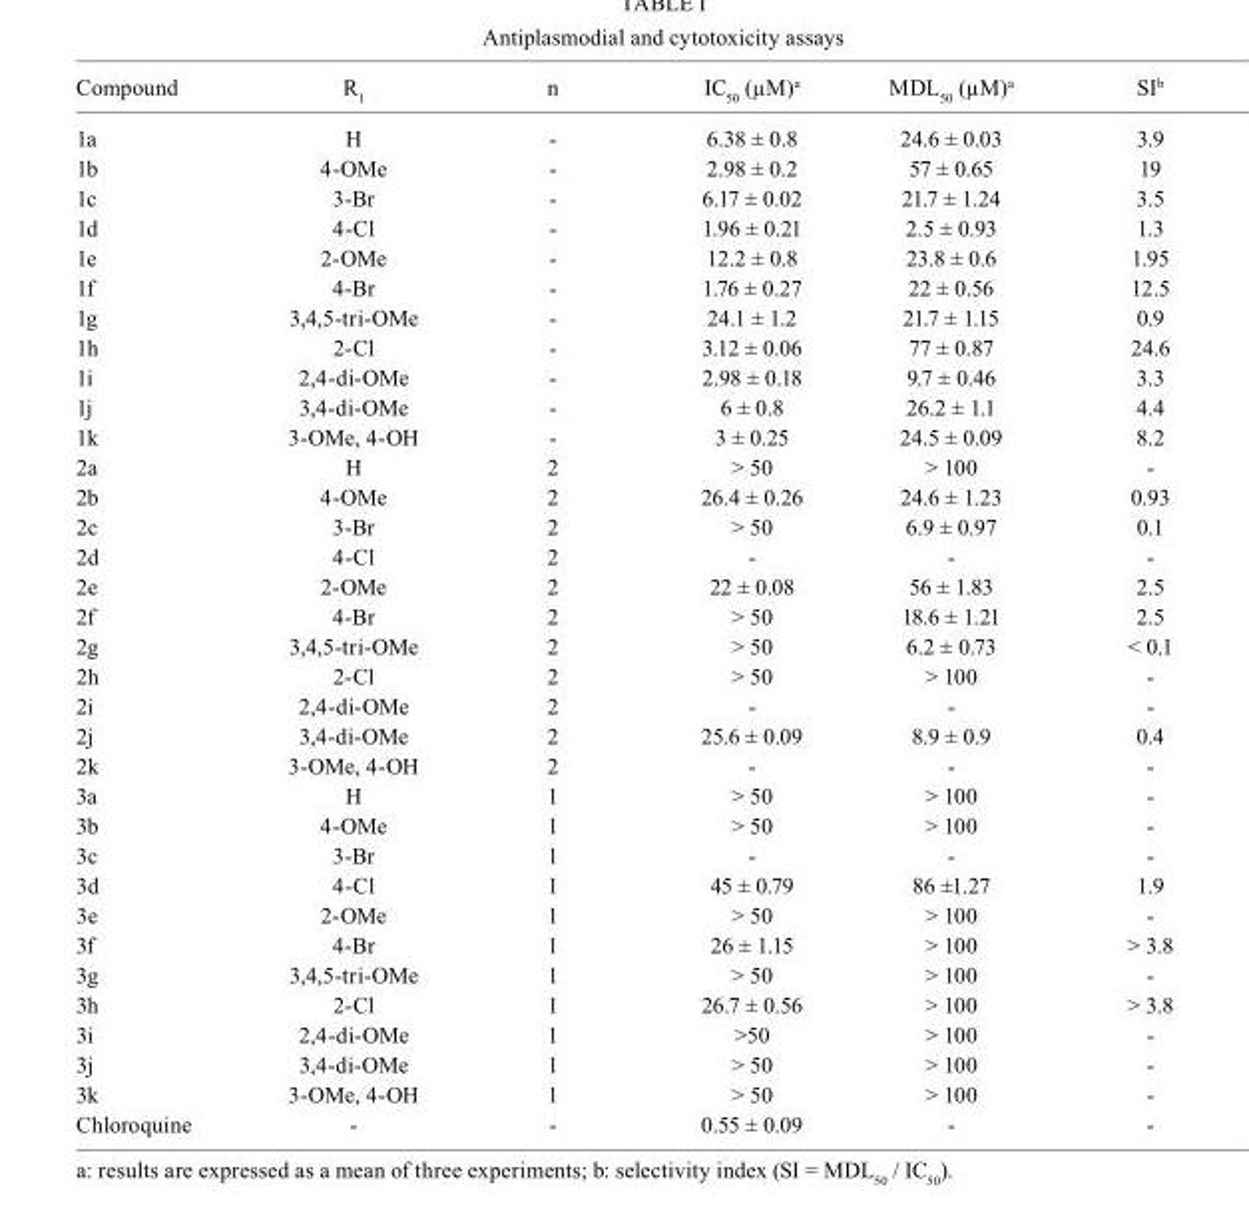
<table><thead><tr><td>Compound</td><td>R<sub>1</sub></td><td>n</td><td>IC<sub>50</sub> (µM)<sup>a</sup></td><td>MDL<sub>50</sub> (µM)<sup>a</sup></td><td>SI<sup>b</sup></td></tr></thead><tbody><tr><td>1a</td><td>H</td><td>-</td><td>6.38 ± 0.8</td><td>24.6 ± 0.03</td><td>3.9</td></tr><tr><td>1b</td><td>4-OMe</td><td>-</td><td>2.98 ± 0.2</td><td>57 ± 0.65</td><td>19</td></tr><tr><td>1c</td><td>3-Br</td><td>-</td><td>6.17 ± 0.02</td><td>21.7 ± 1.24</td><td>3.5</td></tr><tr><td>1d</td><td>4-Cl</td><td>-</td><td>1.96 ± 0.21</td><td>2.5 ± 0.93</td><td>1.3</td></tr><tr><td>1e</td><td>2-OMe</td><td>-</td><td>12.2 ± 0.8</td><td>23.8 ± 0.6</td><td>1.95</td></tr><tr><td>1f</td><td>4-Br</td><td>-</td><td>1.76 ± 0.27</td><td>22 ± 0.56</td><td>12.5</td></tr><tr><td>1g</td><td>3,4,5-tri-OMe</td><td>-</td><td>24.1 ± 1.2</td><td>21.7 ± 1.15</td><td>0.9</td></tr><tr><td>1h</td><td>2-Cl</td><td>-</td><td>3.12 ± 0.06</td><td>77 ± 0.87</td><td>24.6</td></tr><tr><td>1i</td><td>2,4-di-OMe</td><td>-</td><td>2.98 ± 0.18</td><td>9.7 ± 0.46</td><td>3.3</td></tr><tr><td>1j</td><td>3,4-di-OMe</td><td>-</td><td>6 ± 0.8</td><td>26.2 ± 1.1</td><td>4.4</td></tr><tr><td>1k</td><td>3-OMe, 4-OH</td><td>-</td><td>3 ± 0.25</td><td>24.5 ± 0.09</td><td>8.2</td></tr><tr><td>2a</td><td>H</td><td>2</td><td>&gt; 50</td><td>&gt; 100</td><td>-</td></tr><tr><td>2b</td><td>4-OMe</td><td>2</td><td>26.4 ± 0.26</td><td>24.6 ± 1.23</td><td>0.93</td></tr><tr><td>2c</td><td>3-Br</td><td>2</td><td>&gt; 50</td><td>6.9 ± 0.97</td><td>0.1</td></tr><tr><td>2d</td><td>4-Cl</td><td>2</td><td>-</td><td>-</td><td>-</td></tr><tr><td>2e</td><td>2-OMe</td><td>2</td><td>22 ± 0.08</td><td>56 ± 1.83</td><td>2.5</td></tr><tr><td>2f</td><td>4-Br</td><td>2</td><td>&gt; 50</td><td>18.6 ± 1.21</td><td>2.5</td></tr><tr><td>2g</td><td>3,4,5-tri-OMe</td><td>2</td><td>&gt; 50</td><td>6.2 ± 0.73</td><td>&lt; 0.1</td></tr><tr><td>2h</td><td>2-Cl</td><td>2</td><td>&gt; 50</td><td>&gt; 100</td><td>-</td></tr><tr><td>2i</td><td>2,4-di-OMe</td><td>2</td><td>-</td><td>-</td><td>-</td></tr><tr><td>2j</td><td>3,4-di-OMe</td><td>2</td><td>25.6 ± 0.09</td><td>8.9 ± 0.9</td><td>0.4</td></tr><tr><td>2k</td><td>3-OMe, 4-OH</td><td>2</td><td>-</td><td>-</td><td>-</td></tr><tr><td>3a</td><td>H</td><td>1</td><td>&gt; 50</td><td>&gt; 100</td><td>-</td></tr><tr><td>3b</td><td>4-OMe</td><td>1</td><td>&gt; 50</td><td>&gt; 100</td><td>-</td></tr><tr><td>3c</td><td>3-Br</td><td>1</td><td>-</td><td>-</td><td>-</td></tr><tr><td>3d</td><td>4-Cl</td><td>1</td><td>45 ± 0.79</td><td>86 ±1.27</td><td>1.9</td></tr><tr><td>3e</td><td>2-OMe</td><td>1</td><td>&gt; 50</td><td>&gt; 100</td><td>-</td></tr><tr><td>3f</td><td>4-Br</td><td>1</td><td>26 ± 1.15</td><td>&gt; 100</td><td>&gt; 3.8</td></tr><tr><td>3g</td><td>3,4,5-tri-OMe</td><td>1</td><td>&gt; 50</td><td>&gt; 100</td><td>-</td></tr><tr><td>3h</td><td>2-Cl</td><td>1</td><td>26.7 ± 0.56</td><td>&gt; 100</td><td>&gt; 3.8</td></tr><tr><td>3i</td><td>2,4-di-OMe</td><td>1</td><td>&gt;50</td><td>&gt; 100</td><td>-</td></tr><tr><td>3j</td><td>3,4-di-OMe</td><td>1</td><td>&gt; 50</td><td>&gt; 100</td><td>-</td></tr><tr><td>3k</td><td>3-OMe, 4-OH</td><td>1</td><td>&gt; 50</td><td>&gt; 100</td><td>-</td></tr><tr><td>Chloroquine</td><td>-</td><td>-</td><td>0.55 ± 0.09</td><td>-</td><td>-</td></tr></tbody></table>